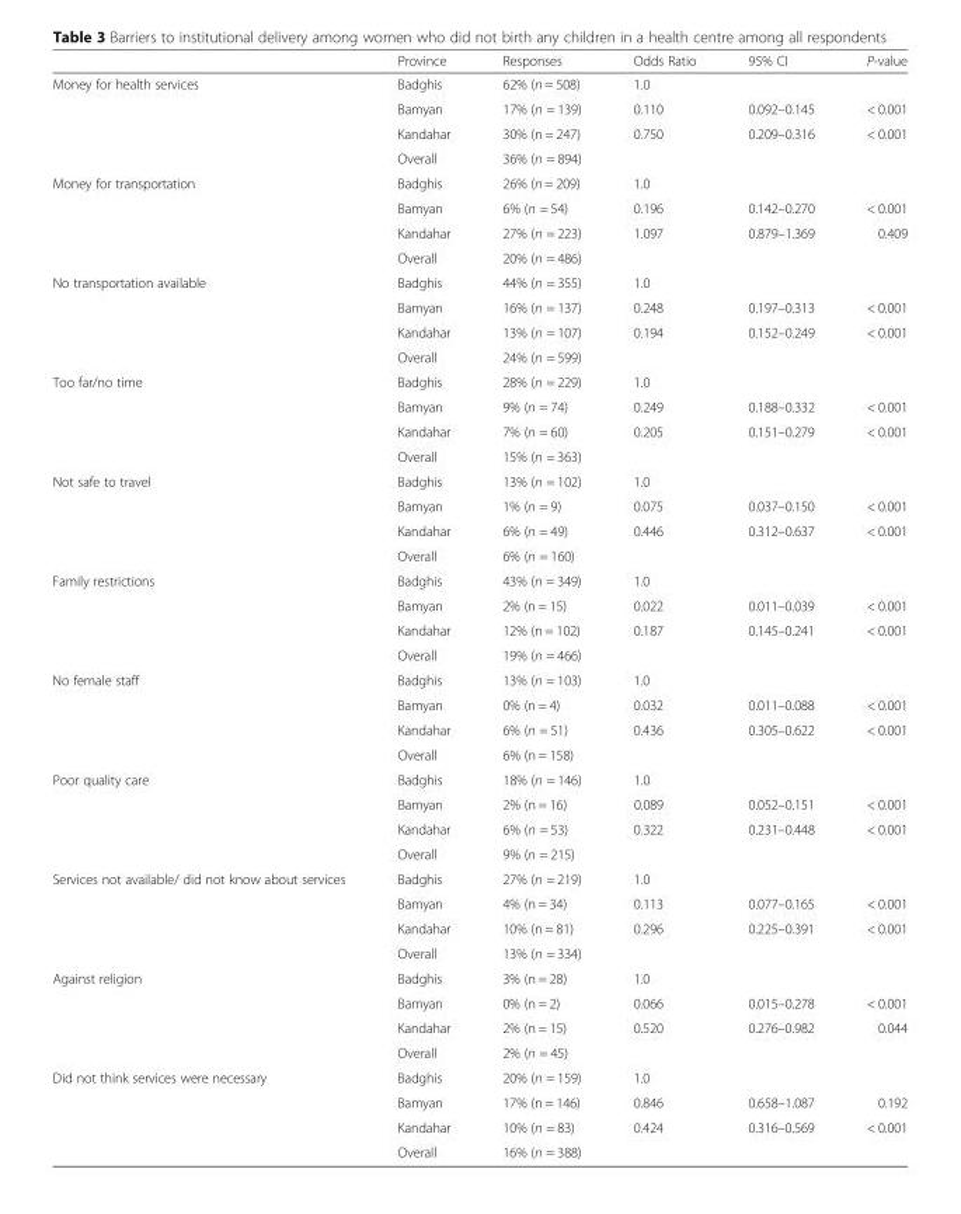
<table><thead><tr><td></td><td>Province</td><td>Responses</td><td>Odds Ratio</td><td>95% CI</td><td>P-value</td></tr></thead><tbody><tr><td rowspan="4">Money for health services</td><td>Badghis</td><td>62% (n = 508)</td><td>1.0</td><td></td><td></td></tr><tr><td>Bamyan</td><td>17% (n = 139)</td><td>0.110</td><td>0.092–0.145</td><td>&lt; 0.001</td></tr><tr><td>Kandahar</td><td>30% (n = 247)</td><td>0.750</td><td>0.209–0.316</td><td>&lt; 0.001</td></tr><tr><td>Overall</td><td>36% (n = 894)</td><td></td><td></td><td></td></tr><tr><td rowspan="4">Money for transportation</td><td>Badghis</td><td>26% (n = 209)</td><td>1.0</td><td></td><td></td></tr><tr><td>Bamyan</td><td>6% (n = 54)</td><td>0.196</td><td>0.142–0.270</td><td>&lt; 0.001</td></tr><tr><td>Kandahar</td><td>27% (n = 223)</td><td>1.097</td><td>0.879–1.369</td><td>0.409</td></tr><tr><td>Overall</td><td>20% (n = 486)</td><td></td><td></td><td></td></tr><tr><td rowspan="4">No transportation available</td><td>Badghis</td><td>44% (n = 355)</td><td>1.0</td><td></td><td></td></tr><tr><td>Bamyan</td><td>16% (n = 137)</td><td>0.248</td><td>0.197–0.313</td><td>&lt; 0.001</td></tr><tr><td>Kandahar</td><td>13% (n = 107)</td><td>0.194</td><td>0.152–0.249</td><td>&lt; 0.001</td></tr><tr><td>Overall</td><td>24% (n = 599)</td><td></td><td></td><td></td></tr><tr><td rowspan="4">Too far/no time</td><td>Badghis</td><td>28% (n = 229)</td><td>1.0</td><td></td><td></td></tr><tr><td>Bamyan</td><td>9% (n = 74)</td><td>0.249</td><td>0.188–0.332</td><td>&lt; 0.001</td></tr><tr><td>Kandahar</td><td>7% (n = 60)</td><td>0.205</td><td>0.151–0.279</td><td>&lt; 0.001</td></tr><tr><td>Overall</td><td>15% (n = 363)</td><td></td><td></td><td></td></tr><tr><td rowspan="4">Not safe to travel</td><td>Badghis</td><td>13% (n = 102)</td><td>1.0</td><td></td><td></td></tr><tr><td>Bamyan</td><td>1% (n = 9)</td><td>0.075</td><td>0.037–0.150</td><td>&lt; 0.001</td></tr><tr><td>Kandahar</td><td>6% (n = 49)</td><td>0.446</td><td>0.312–0.637</td><td>&lt; 0.001</td></tr><tr><td>Overall</td><td>6% (n = 160)</td><td></td><td></td><td></td></tr><tr><td rowspan="4">Family restrictions</td><td>Badghis</td><td>43% (n = 349)</td><td>1.0</td><td></td><td></td></tr><tr><td>Bamyan</td><td>2% (n = 15)</td><td>0.022</td><td>0.011–0.039</td><td>&lt; 0.001</td></tr><tr><td>Kandahar</td><td>12% (n = 102)</td><td>0.187</td><td>0.145–0.241</td><td>&lt; 0.001</td></tr><tr><td>Overall</td><td>19% (n = 466)</td><td></td><td></td><td></td></tr><tr><td rowspan="4">No female staff</td><td>Badghis</td><td>13% (n = 103)</td><td>1.0</td><td></td><td></td></tr><tr><td>Bamyan</td><td>0% (n = 4)</td><td>0.032</td><td>0.011–0.088</td><td>&lt; 0.001</td></tr><tr><td>Kandahar</td><td>6% (n = 51)</td><td>0.436</td><td>0.305–0.622</td><td>&lt; 0.001</td></tr><tr><td>Overall</td><td>6% (n = 158)</td><td></td><td></td><td></td></tr><tr><td rowspan="4">Poor quality care</td><td>Badghis</td><td>18% (n = 146)</td><td>1.0</td><td></td><td></td></tr><tr><td>Bamyan</td><td>2% (n = 16)</td><td>0.089</td><td>0.052–0.151</td><td>&lt; 0.001</td></tr><tr><td>Kandahar</td><td>6% (n = 53)</td><td>0.322</td><td>0.231–0.448</td><td>&lt; 0.001</td></tr><tr><td>Overall</td><td>9% (n = 215)</td><td></td><td></td><td></td></tr><tr><td rowspan="4">Services not available/ did not know about services</td><td>Badghis</td><td>27% (n = 219)</td><td>1.0</td><td></td><td></td></tr><tr><td>Bamyan</td><td>4% (n = 34)</td><td>0.113</td><td>0.077–0.165</td><td>&lt; 0.001</td></tr><tr><td>Kandahar</td><td>10% (n = 81)</td><td>0.296</td><td>0.225–0.391</td><td>&lt; 0.001</td></tr><tr><td>Overall</td><td>13% (n = 334)</td><td></td><td></td><td></td></tr><tr><td rowspan="4">Against religion</td><td>Badghis</td><td>3% (n = 28)</td><td>1.0</td><td></td><td></td></tr><tr><td>Bamyan</td><td>0% (n = 2)</td><td>0.066</td><td>0.015–0.278</td><td>&lt; 0.001</td></tr><tr><td>Kandahar</td><td>2% (n = 15)</td><td>0.520</td><td>0.276–0.982</td><td>0.044</td></tr><tr><td>Overall</td><td>2% (n = 45)</td><td></td><td></td><td></td></tr><tr><td rowspan="4">Did not think services were necessary</td><td>Badghis</td><td>20% (n = 159)</td><td>1.0</td><td></td><td></td></tr><tr><td>Bamyan</td><td>17% (n = 146)</td><td>0.846</td><td>0.658–1.087</td><td>0.192</td></tr><tr><td>Kandahar</td><td>10% (n = 83)</td><td>0.424</td><td>0.316–0.569</td><td>&lt; 0.001</td></tr><tr><td>Overall</td><td>16% (n = 388)</td><td></td><td></td><td></td></tr></tbody></table>